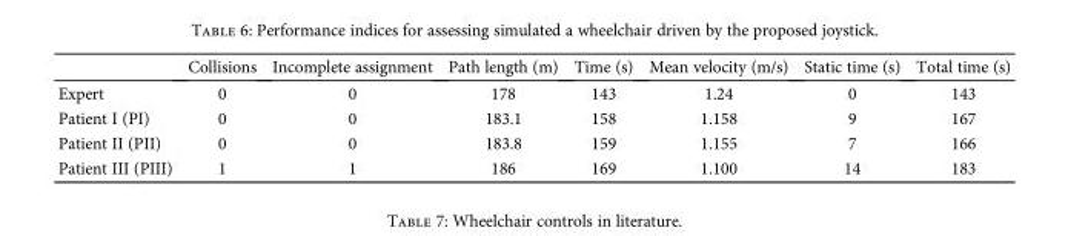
<table><thead><tr><td></td><td>Collisions</td><td>Incomplete assignment</td><td>Path length (m)</td><td>Time (s)</td><td>Mean velocity (m/s)</td><td>Static time (s)</td><td>Total time (s)</td></tr></thead><tbody><tr><td>Expert</td><td>0</td><td>0</td><td>178</td><td>143</td><td>1.24</td><td>0</td><td>143</td></tr><tr><td>Patient I (PI)</td><td>0</td><td>0</td><td>183.1</td><td>158</td><td>1.158</td><td>9</td><td>167</td></tr><tr><td>Patient II (PII)</td><td>0</td><td>0</td><td>183.8</td><td>159</td><td>1.155</td><td>7</td><td>166</td></tr><tr><td>Patient III (PIII)</td><td>1</td><td>1</td><td>186</td><td>169</td><td>1.100</td><td>14</td><td>183</td></tr></tbody></table>